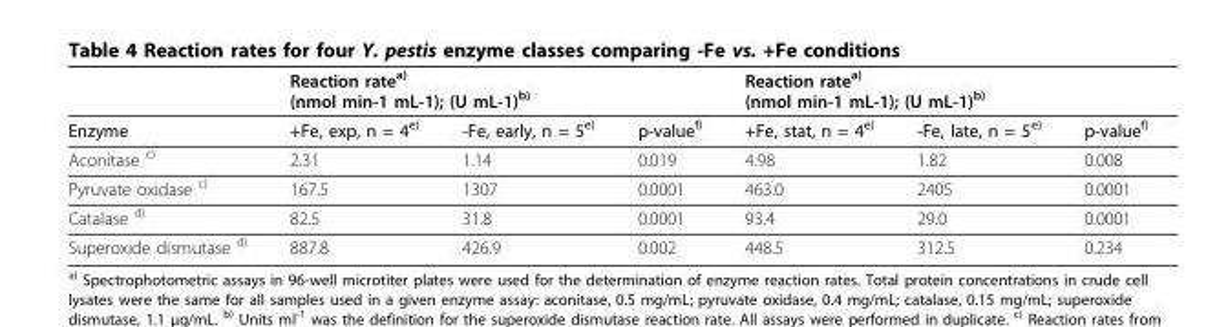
<table><thead><tr><td rowspan="2">Enzyme</td><td colspan="3">Reaction rate<sup>a)</sup> (nmol min-1 mL-1); (U mL-1)<sup>b)</sup></td><td colspan="3">Reaction rate<sup>a)</sup> (nmol min-1 mL-1); (U mL-1)<sup>b)</sup></td></tr><tr><td>+Fe, exp, n = 4<sup>e)</sup></td><td>-Fe, early, n = 5<sup>e)</sup></td><td>p-value<sup>f)</sup></td><td>+Fe, stat, n = 4<sup>e)</sup></td><td>-Fe, late, n = 5<sup>e)</sup></td><td>p-value<sup>f)</sup></td></tr></thead><tbody><tr><td>Aconitase <sup>c)</sup></td><td>2.31</td><td>1.14</td><td>0.019</td><td>4.98</td><td>1.82</td><td>0.008</td></tr><tr><td>Pyruvate oxidase <sup>c)</sup></td><td>167.5</td><td>1307</td><td>0.0001</td><td>463.0</td><td>2405</td><td>0.0001</td></tr><tr><td>Catalase <sup>d)</sup></td><td>82.5</td><td>31.8</td><td>0.0001</td><td>93.4</td><td>29.0</td><td>0.0001</td></tr><tr><td>Superoxide dismutase <sup>d)</sup></td><td>887.8</td><td>426.9</td><td>0.002</td><td>448.5</td><td>312.5</td><td>0.234</td></tr></tbody></table>